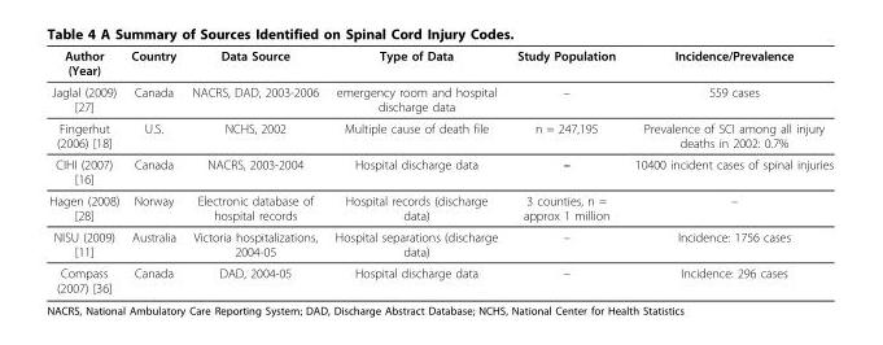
<table><thead><tr><td>Author (Year)</td><td>Country</td><td>Data Source</td><td>Type of Data</td><td>Study Population</td><td>Incidence/Prevalence</td></tr></thead><tbody><tr><td>Jaglal (2009) [27]</td><td>Canada</td><td>NACRS, DAD, 2003-2006</td><td>emergency room and hospital discharge data</td><td>–</td><td>559 cases</td></tr><tr><td>Fingerhut (2006) [18]</td><td>U.S.</td><td>NCHS, 2002</td><td>Multiple cause of death file</td><td>n = 247,195</td><td>Prevalence of SCI among all injury deaths in 2002: 0.7%</td></tr><tr><td>CIHI (2007) [16]</td><td>Canada</td><td>NACRS, 2003-2004</td><td>Hospital discharge data</td><td>–</td><td>10400 incident cases of spinal injuries</td></tr><tr><td>Hagen (2008) [28]</td><td>Norway</td><td>Electronic database of hospital records</td><td>Hospital records (discharge data)</td><td>3 counties, n = approx 1 million</td><td>–</td></tr><tr><td>NISU (2009) [11]</td><td>Australia</td><td>Victoria hospitalizations, 2004-05</td><td>Hospital separations (discharge data)</td><td>–</td><td>Incidence: 1756 cases</td></tr><tr><td>Compass (2007) [36]</td><td>Canada</td><td>DAD, 2004-05</td><td>Hospital discharge data</td><td>–</td><td>Incidence: 296 cases</td></tr></tbody></table>